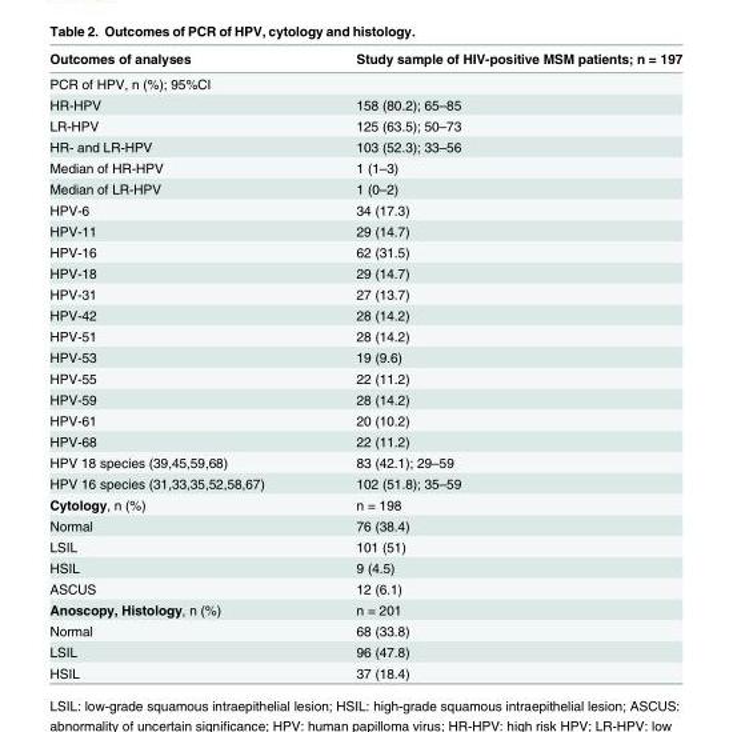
<table><thead><tr><td>Outcomes of analyses</td><td>Study sample of HIV-positive MSM patients; n = 197</td></tr></thead><tbody><tr><td colspan="2">PCR of HPV, n (%); 95%CI</td></tr><tr><td>HR-HPV</td><td>158 (80.2); 65–85</td></tr><tr><td>LR-HPV</td><td>125 (63.5); 50–73</td></tr><tr><td>HR- and LR-HPV</td><td>103 (52.3); 33–56</td></tr><tr><td>Median of HR-HPV</td><td>1 (1–3)</td></tr><tr><td>Median of LR-HPV</td><td>1 (0–2)</td></tr><tr><td>HPV-6</td><td>34 (17.3)</td></tr><tr><td>HPV-11</td><td>29 (14.7)</td></tr><tr><td>HPV-16</td><td>62 (31.5)</td></tr><tr><td>HPV-18</td><td>29 (14.7)</td></tr><tr><td>HPV-31</td><td>27 (13.7)</td></tr><tr><td>HPV-42</td><td>28 (14.2)</td></tr><tr><td>HPV-51</td><td>28 (14.2)</td></tr><tr><td>HPV-53</td><td>19 (9.6)</td></tr><tr><td>HPV-55</td><td>22 (11.2)</td></tr><tr><td>HPV-59</td><td>28 (14.2)</td></tr><tr><td>HPV-61</td><td>20 (10.2)</td></tr><tr><td>HPV-68</td><td>22 (11.2)</td></tr><tr><td>HPV 18 species (39,45,59,68)</td><td>83 (42.1); 29–59</td></tr><tr><td>HPV 16 species (31,33,35,52,58,67)</td><td>102 (51.8); 35–59</td></tr><tr><td>Cytology, n (%)</td><td>n = 198</td></tr><tr><td>Normal</td><td>76 (38.4)</td></tr><tr><td>LSIL</td><td>101 (51)</td></tr><tr><td>HSIL</td><td>9 (4.5)</td></tr><tr><td>ASCUS</td><td>12 (6.1)</td></tr><tr><td>Anoscopy, Histology, n (%)</td><td>n = 201</td></tr><tr><td>Normal</td><td>68 (33.8)</td></tr><tr><td>LSIL</td><td>96 (47.8)</td></tr><tr><td>HSIL</td><td>37 (18.4)</td></tr></tbody></table>